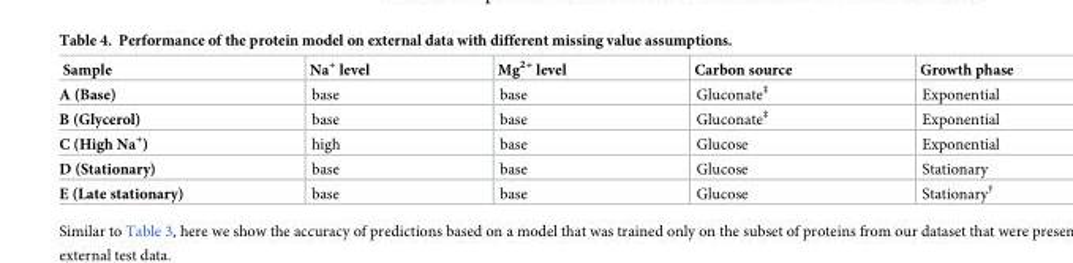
<table><thead><tr><td>Sample</td><td>Na<sup>+</sup> level</td><td>Mg<sup>2+</sup> level</td><td>Carbon source</td><td>Growth phase</td></tr></thead><tbody><tr><td>A (Base)</td><td>base</td><td>base</td><td>Gluconate<sup>‡</sup></td><td>Exponential</td></tr><tr><td>B (Glycerol)</td><td>base</td><td>base</td><td>Gluconate<sup>‡</sup></td><td>Exponential</td></tr><tr><td>C (High Na<sup>+</sup>)</td><td>high</td><td>base</td><td>Glucose</td><td>Exponential</td></tr><tr><td>D (Stationary)</td><td>base</td><td>base</td><td>Glucose</td><td>Stationary</td></tr><tr><td>E (Late stationary)</td><td>base</td><td>base</td><td>Glucose</td><td>Stationary<sup>†</sup></td></tr></tbody></table>